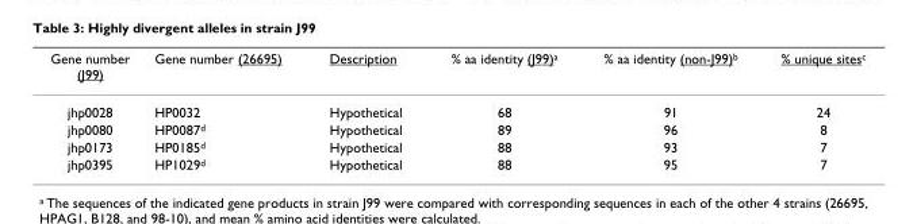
<table><thead><tr><td>Gene number (J99)</td><td>Gene number (26695)</td><td>Description</td><td>% aa identity (J99)<sup>a</sup></td><td>% aa identity (non-J99)<sup>b</sup></td><td>% unique sites<sup>c</sup></td></tr></thead><tbody><tr><td>jhp0028</td><td>HP0032</td><td>Hypothetical</td><td>68</td><td>91</td><td>24</td></tr><tr><td>jhp0080</td><td>HP0087<sup>d</sup></td><td>Hypothetical</td><td>89</td><td>96</td><td>8</td></tr><tr><td>jhp0173</td><td>HP0185<sup>d</sup></td><td>Hypothetical</td><td>88</td><td>93</td><td>7</td></tr><tr><td>jhp0395</td><td>HP1029<sup>d</sup></td><td>Hypothetical</td><td>88</td><td>95</td><td>7</td></tr></tbody></table>